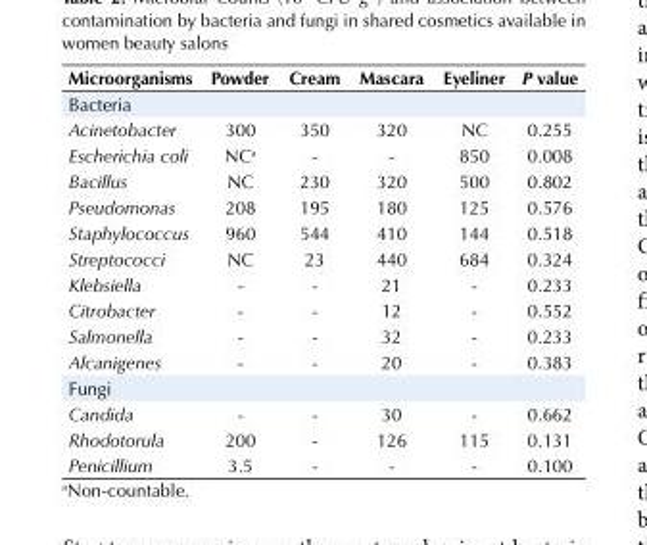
<table><tbody><tr><td>Microorganisms</td><td>Powder</td><td>Cream</td><td>Mascara</td><td>Eyeliner</td><td>P value</td></tr><tr><td colspan="6">Bacteria</td></tr><tr><td>Acinetobacter</td><td>300</td><td>350</td><td>320</td><td>NC</td><td>0.255</td></tr><tr><td>Escherichia coli</td><td>NC<sup>a</sup></td><td>-</td><td>-</td><td>850</td><td>0.008</td></tr><tr><td>Bacillus</td><td>NC</td><td>230</td><td>320</td><td>500</td><td>0.802</td></tr><tr><td>Pseudomonas</td><td>208</td><td>195</td><td>180</td><td>125</td><td>0.576</td></tr><tr><td>Staphylococcus</td><td>960</td><td>544</td><td>410</td><td>144</td><td>0.518</td></tr><tr><td>Streptococci</td><td>NC</td><td>23</td><td>440</td><td>684</td><td>0.324</td></tr><tr><td>Klebsiella</td><td>-</td><td>-</td><td>21</td><td>-</td><td>0.233</td></tr><tr><td>Citrobacter</td><td>-</td><td>-</td><td>12</td><td>-</td><td>0.552</td></tr><tr><td>Salmonella</td><td>-</td><td>-</td><td>32</td><td>-</td><td>0.233</td></tr><tr><td>Alcanigenes</td><td>-</td><td>-</td><td>20</td><td>-</td><td>0.383</td></tr><tr><td colspan="6">Fungi</td></tr><tr><td>Candida</td><td>-</td><td>-</td><td>30</td><td>-</td><td>0.662</td></tr><tr><td>Rhodotorula</td><td>200</td><td>-</td><td>126</td><td>115</td><td>0.131</td></tr><tr><td>Penicillium</td><td>3.5</td><td>-</td><td>-</td><td>-</td><td>0.100</td></tr></tbody></table>